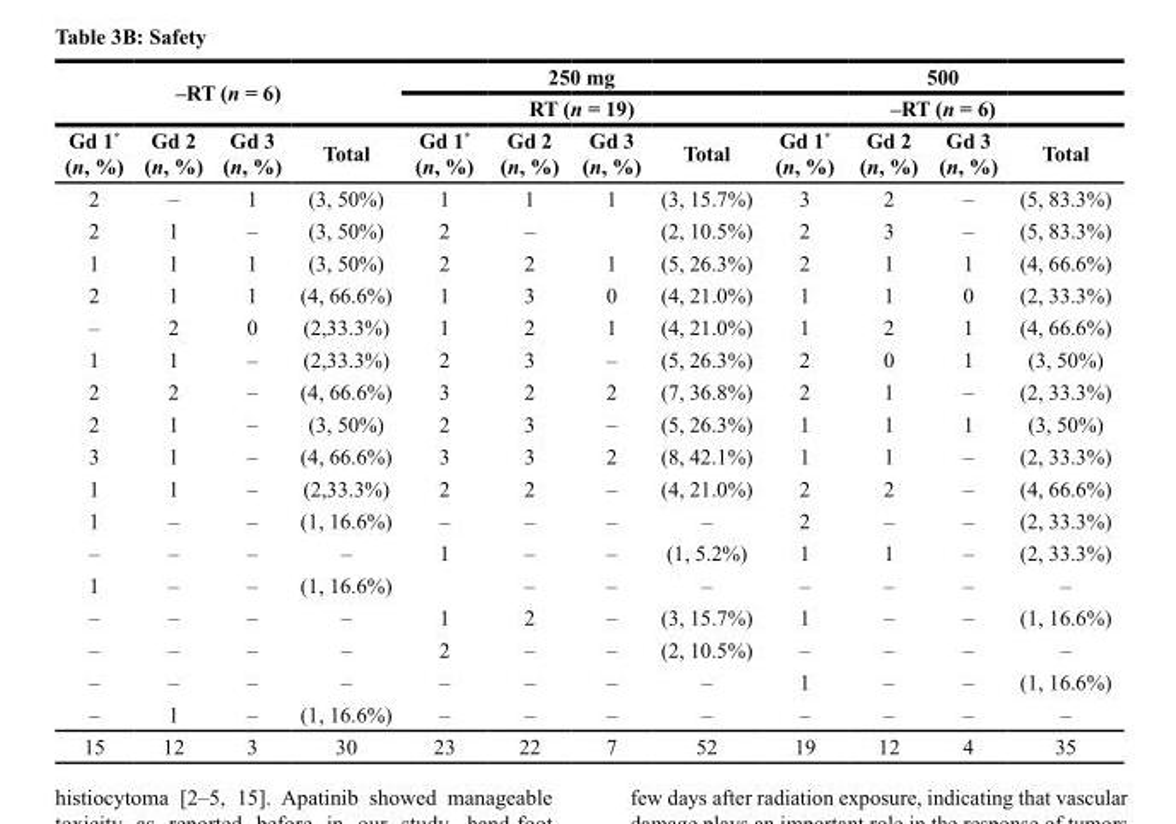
<table><thead><tr><td rowspan="2" colspan="4">–RT (n = 6)</td><td rowspan="2" colspan="4">250 mg RT (n = 19)</td><td rowspan="2" colspan="4">500 –RT (n = 6)</td></tr><tr></tr><tr><td>Gd 1* (n, %)</td><td>Gd 2 (n, %)</td><td>Gd 3 (n, %)</td><td>Total</td><td>Gd 1* (n, %)</td><td>Gd 2 (n, %)</td><td>Gd 3 (n, %)</td><td>Total</td><td>Gd 1* (n, %)</td><td>Gd 2 (n, %)</td><td>Gd 3 (n, %)</td><td>Total</td></tr></thead><tbody><tr><td>2</td><td>–</td><td>1</td><td>(3, 50%)</td><td>1</td><td>1</td><td>1</td><td>(3, 15.7%)</td><td>3</td><td>2</td><td>–</td><td>(5, 83.3%)</td></tr><tr><td>2</td><td>1</td><td>–</td><td>(3, 50%)</td><td>2</td><td>–</td><td></td><td>(2, 10.5%)</td><td>2</td><td>3</td><td>–</td><td>(5, 83.3%)</td></tr><tr><td>1</td><td>1</td><td>1</td><td>(3, 50%)</td><td>2</td><td>2</td><td>1</td><td>(5, 26.3%)</td><td>2</td><td>1</td><td>1</td><td>(4, 66.6%)</td></tr><tr><td>2</td><td>1</td><td>1</td><td>(4, 66.6%)</td><td>1</td><td>3</td><td>0</td><td>(4, 21.0%)</td><td>1</td><td>1</td><td>0</td><td>(2, 33.3%)</td></tr><tr><td>–</td><td>2</td><td>0</td><td>(2,33.3%)</td><td>1</td><td>2</td><td>1</td><td>(4, 21.0%)</td><td>1</td><td>2</td><td>1</td><td>(4, 66.6%)</td></tr><tr><td>1</td><td>1</td><td>–</td><td>(2,33.3%)</td><td>2</td><td>3</td><td>–</td><td>(5, 26.3%)</td><td>2</td><td>0</td><td>1</td><td>(3, 50%)</td></tr><tr><td>2</td><td>2</td><td>–</td><td>(4, 66.6%)</td><td>3</td><td>2</td><td>2</td><td>(7, 36.8%)</td><td>2</td><td>1</td><td>–</td><td>(2, 33.3%)</td></tr><tr><td>2</td><td>1</td><td>–</td><td>(3, 50%)</td><td>2</td><td>3</td><td>–</td><td>(5, 26.3%)</td><td>1</td><td>1</td><td>1</td><td>(3, 50%)</td></tr><tr><td>3</td><td>1</td><td>–</td><td>(4, 66.6%)</td><td>3</td><td>3</td><td>2</td><td>(8, 42.1%)</td><td>1</td><td>1</td><td>–</td><td>(2, 33.3%)</td></tr><tr><td>1</td><td>1</td><td>–</td><td>(2,33.3%)</td><td>2</td><td>2</td><td>–</td><td>(4, 21.0%)</td><td>2</td><td>2</td><td>–</td><td>(4, 66.6%)</td></tr><tr><td>1</td><td>–</td><td>–</td><td>(1, 16.6%)</td><td>–</td><td>–</td><td>–</td><td>–</td><td>2</td><td>–</td><td>–</td><td>(2, 33.3%)</td></tr><tr><td>–</td><td>–</td><td>–</td><td>–</td><td>1</td><td>–</td><td>–</td><td>(1, 5.2%)</td><td>1</td><td>1</td><td>–</td><td>(2, 33.3%)</td></tr><tr><td>1</td><td>–</td><td>–</td><td>(1, 16.6%)</td><td></td><td>–</td><td>–</td><td>–</td><td>–</td><td>–</td><td>–</td><td>–</td></tr><tr><td>–</td><td>–</td><td>–</td><td>–</td><td>1</td><td>2</td><td>–</td><td>(3, 15.7%)</td><td>1</td><td>–</td><td>–</td><td>(1, 16.6%)</td></tr><tr><td>–</td><td>–</td><td>–</td><td>–</td><td>2</td><td>–</td><td>–</td><td>(2, 10.5%)</td><td>–</td><td>–</td><td>–</td><td>–</td></tr><tr><td>–</td><td>–</td><td>–</td><td>–</td><td>–</td><td>–</td><td>–</td><td>–</td><td>1</td><td>–</td><td>–</td><td>(1, 16.6%)</td></tr><tr><td>–</td><td>1</td><td>–</td><td>(1, 16.6%)</td><td>–</td><td>–</td><td>–</td><td>–</td><td>–</td><td>–</td><td>–</td><td>–</td></tr><tr><td>15</td><td>12</td><td>3</td><td>30</td><td>23</td><td>22</td><td>7</td><td>52</td><td>19</td><td>12</td><td>4</td><td>35</td></tr></tbody></table>